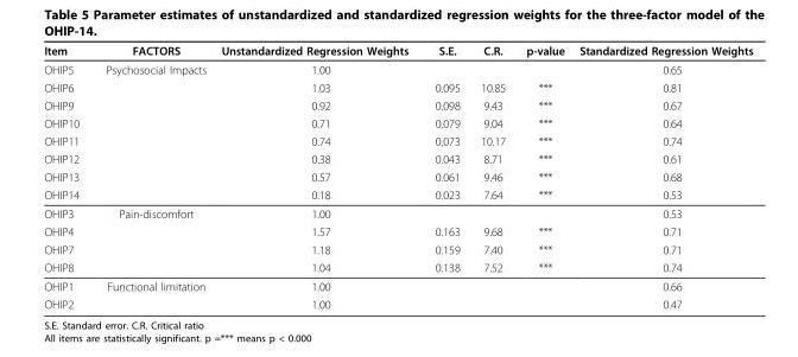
<table><thead><tr><td>Item</td><td>FACTORS</td><td>Unstandardized Regression Weights</td><td>S.E.</td><td>C.R.</td><td>p-value</td><td>Standardized Regression Weights</td></tr></thead><tbody><tr><td>OHIP5</td><td>Psychosocial Impacts</td><td>1.00</td><td></td><td></td><td></td><td>0.65</td></tr><tr><td>OHIP6</td><td></td><td>1.03</td><td>0.095</td><td>10.85</td><td>***</td><td>0.81</td></tr><tr><td>OHIP9</td><td></td><td>0.92</td><td>0.098</td><td>9.43</td><td>***</td><td>0.67</td></tr><tr><td>OHIP10</td><td></td><td>0.71</td><td>0.079</td><td>9.04</td><td>***</td><td>0.64</td></tr><tr><td>OHIP11</td><td></td><td>0.74</td><td>0.073</td><td>10.17</td><td>***</td><td>0.74</td></tr><tr><td>OHIP12</td><td></td><td>0.38</td><td>0.043</td><td>8.71</td><td>***</td><td>0.61</td></tr><tr><td>OHIP13</td><td></td><td>0.57</td><td>0.061</td><td>9.46</td><td>***</td><td>0.68</td></tr><tr><td>OHIP14</td><td></td><td>0.18</td><td>0.023</td><td>7.64</td><td>***</td><td>0.53</td></tr><tr><td>OHIP3</td><td>Pain-discomfort</td><td>1.00</td><td></td><td></td><td></td><td>0.53</td></tr><tr><td>OHIP4</td><td></td><td>1.57</td><td>0.163</td><td>9.68</td><td>***</td><td>0.71</td></tr><tr><td>OHIP7</td><td></td><td>1.18</td><td>0.159</td><td>7.40</td><td>***</td><td>0.71</td></tr><tr><td>OHIP8</td><td></td><td>1.04</td><td>0.138</td><td>7.52</td><td>***</td><td>0.74</td></tr><tr><td>OHIP1</td><td>Functional limitation</td><td>1.00</td><td></td><td></td><td></td><td>0.66</td></tr><tr><td>OHIP2</td><td></td><td>1.00</td><td></td><td></td><td></td><td>0.47</td></tr></tbody></table>